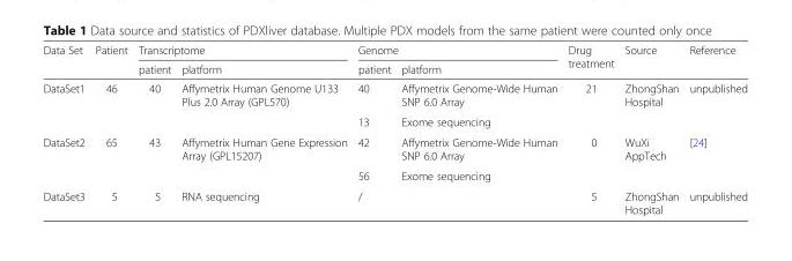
<table><thead><tr><td rowspan="2">Data Set</td><td rowspan="2">Patient</td><td colspan="2">Transcriptome</td><td colspan="2">Genome</td><td rowspan="2">Drug treatment</td><td rowspan="2">Source</td><td rowspan="2">Reference</td></tr><tr><td>patient</td><td>platform</td><td>patient</td><td>platform</td></tr></thead><tbody><tr><td rowspan="2">DataSet1</td><td rowspan="2">46</td><td rowspan="2">40</td><td rowspan="2">Affymetrix Human Genome U133 Plus 2.0 Array (GPL570)</td><td>40</td><td>Affymetrix Genome-Wide Human SNP 6.0 Array</td><td rowspan="2">21</td><td rowspan="2">ZhongShan Hospital</td><td rowspan="2">unpublished</td></tr><tr><td>13</td><td>Exome sequencing</td></tr><tr><td rowspan="2">DataSet2</td><td rowspan="2">65</td><td rowspan="2">43</td><td rowspan="2">Affymetrix Human Gene Expression Array (GPL15207)</td><td>42</td><td>Affymetrix Genome-Wide Human SNP 6.0 Array</td><td rowspan="2">0</td><td rowspan="2">WuXi AppTech</td><td rowspan="2">[24]</td></tr><tr><td>56</td><td>Exome sequencing</td></tr><tr><td>DataSet3</td><td>5</td><td>5</td><td>RNA sequencing</td><td colspan="2">/</td><td>5</td><td>ZhongShan Hospital</td><td>unpublished</td></tr></tbody></table>